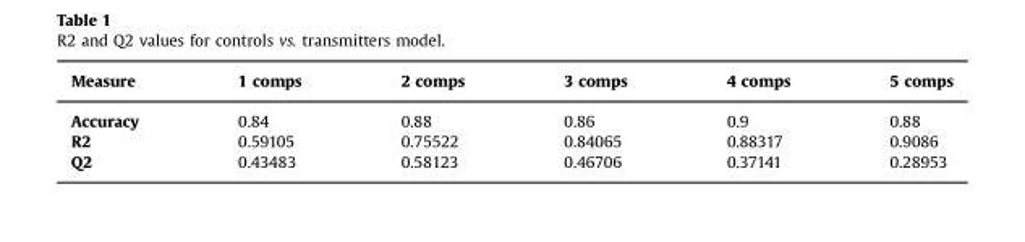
<table><thead><tr><td>Measure</td><td>1 comps</td><td>2 comps</td><td>3 comps</td><td>4 comps</td><td>5 comps</td></tr></thead><tbody><tr><td>Accuracy</td><td>0.84</td><td>0.88</td><td>0.86</td><td>0.9</td><td>0.88</td></tr><tr><td>R2</td><td>0.59105</td><td>0.75522</td><td>0.84065</td><td>0.88317</td><td>0.9086</td></tr><tr><td>Q2</td><td>0.43483</td><td>0.58123</td><td>0.46706</td><td>0.37141</td><td>0.28953</td></tr></tbody></table>